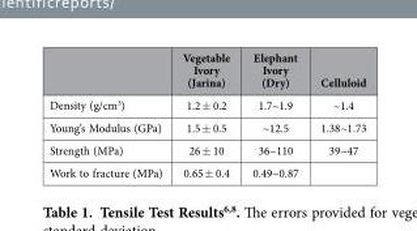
<table><thead><tr><td></td><td>Vegetable Ivory (Jarina)</td><td>Elephant Ivory (Dry)</td><td>Celluloid</td></tr></thead><tbody><tr><td>Density (g/cm<sup>3</sup>)</td><td>1.2 ± 0.2</td><td>1.7~1.9</td><td>~1.4</td></tr><tr><td>Young’s Modulus (GPa)</td><td>1.5 ± 0.5</td><td>~12.5</td><td>1.38~1.73</td></tr><tr><td>Strength (MPa)</td><td>26 ± 10</td><td>36~110</td><td>39~47</td></tr><tr><td>Work to fracture (MPa)</td><td>0.65 ± 0.4</td><td>0.49~0.87</td><td></td></tr></tbody></table>